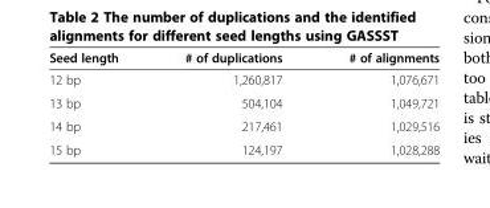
<table><thead><tr><td>Seed length</td><td># of duplications</td><td># of alignments</td></tr></thead><tbody><tr><td>12 bp</td><td>1,260,817</td><td>1,076,671</td></tr><tr><td>13 bp</td><td>504,104</td><td>1,049,721</td></tr><tr><td>14 bp</td><td>217,461</td><td>1,029,516</td></tr><tr><td>15 bp</td><td>124,197</td><td>1,028,288</td></tr></tbody></table>